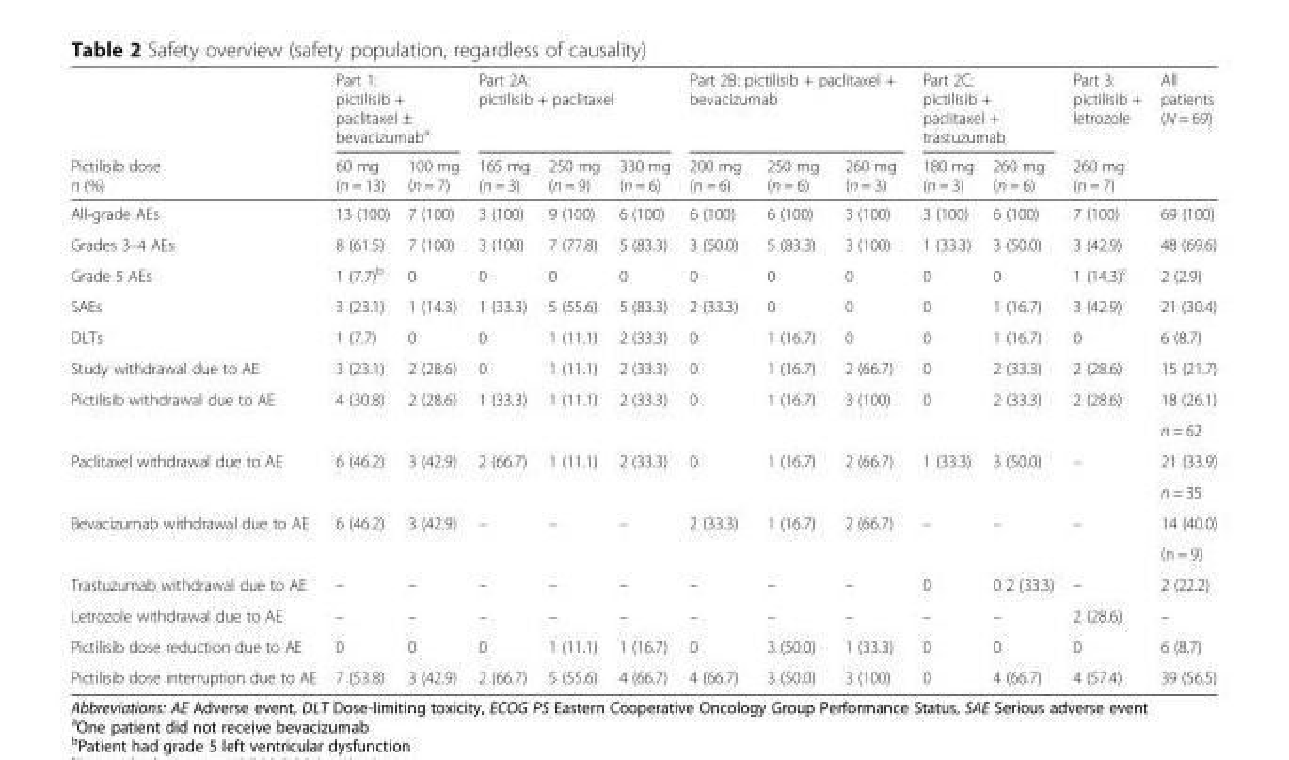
<table><thead><tr><td rowspan="2">Pictilisib dose n (%)</td><td colspan="2">Part 1: pictilisib + paclitaxel ± bevacizumab<sup>a</sup></td><td colspan="3">Part 2A: pictilisib + paclitaxel</td><td colspan="3">Part 2B: pictilisib + paclitaxel + bevacizumab</td><td colspan="2">Part 2C: pictilisib + paclitaxel + trastuzumab</td><td rowspan="2">Part 3: pictilisib + letrozole 260 mg (n = 7)</td><td rowspan="2">All patients (N = 69)</td></tr><tr><td>60 mg (n = 13)</td><td>100 mg (n = 7)</td><td>165 mg (n = 3)</td><td>250 mg (n = 9)</td><td>330 mg (n = 6)</td><td>200 mg (n = 6)</td><td>250 mg (n = 6)</td><td>260 mg (n = 3)</td><td>180 mg (n = 3)</td><td>260 mg (n = 6)</td></tr></thead><tbody><tr><td>All-grade AEs</td><td>13 (100)</td><td>7 (100)</td><td>3 (100)</td><td>9 (100)</td><td>6 (100)</td><td>6 (100)</td><td>6 (100)</td><td>3 (100)</td><td>3 (100)</td><td>6 (100)</td><td>7 (100)</td><td>69 (100)</td></tr><tr><td>Grades 3–4 AEs</td><td>8 (61.5)</td><td>7 (100)</td><td>3 (100)</td><td>7 (77.8)</td><td>5 (83.3)</td><td>3 (50.0)</td><td>5 (83.3)</td><td>3 (100)</td><td>1 (33.3)</td><td>3 (50.0)</td><td>3 (42.9)</td><td>48 (69.6)</td></tr><tr><td>Grade 5 AEs</td><td>1 (7.7)<sup>b</sup></td><td>0</td><td>0</td><td>0</td><td>0</td><td>0</td><td>0</td><td>0</td><td>0</td><td>0</td><td>1 (14.3)<sup>c</sup></td><td>2 (2.9)</td></tr><tr><td>SAEs</td><td>3 (23.1)</td><td>1 (14.3)</td><td>1 (33.3)</td><td>5 (55.6)</td><td>5 (83.3)</td><td>2 (33.3)</td><td>0</td><td>0</td><td>0</td><td>1 (16.7)</td><td>3 (42.9)</td><td>21 (30.4)</td></tr><tr><td>DLTs</td><td>1 (7.7)</td><td>0</td><td>0</td><td>1 (11.1)</td><td>2 (33.3)</td><td>0</td><td>1 (16.7)</td><td>0</td><td>0</td><td>1 (16.7)</td><td>0</td><td>6 (8.7)</td></tr><tr><td>Study withdrawal due to AE</td><td>3 (23.1)</td><td>2 (28.6)</td><td>0</td><td>1 (11.1)</td><td>2 (33.3)</td><td>0</td><td>1 (16.7)</td><td>2 (66.7)</td><td>0</td><td>2 (33.3)</td><td>2 (28.6)</td><td>15 (21.7)</td></tr><tr><td rowspan="2">Pictilisib withdrawal due to AE</td><td>4 (30.8)</td><td>2 (28.6)</td><td>1 (33.3)</td><td>1 (11.1)</td><td>2 (33.3)</td><td>0</td><td>1 (16.7)</td><td>3 (100)</td><td>0</td><td>2 (33.3)</td><td>2 (28.6)</td><td>18 (26.1)</td></tr><tr><td></td><td></td><td></td><td></td><td></td><td></td><td></td><td></td><td></td><td></td><td></td><td>n = 62</td></tr><tr><td rowspan="2">Paclitaxel withdrawal due to AE</td><td>6 (46.2)</td><td>3 (42.9)</td><td>2 (66.7)</td><td>1 (11.1)</td><td>2 (33.3)</td><td>0</td><td>1 (16.7)</td><td>2 (66.7)</td><td>1 (33.3)</td><td>3 (50.0)</td><td>–</td><td>21 (33.9)</td></tr><tr><td></td><td></td><td></td><td></td><td></td><td></td><td></td><td></td><td></td><td></td><td></td><td>n = 35</td></tr><tr><td rowspan="2">Bevacizumab withdrawal due to AE</td><td>6 (46.2)</td><td>3 (42.9)</td><td>–</td><td>–</td><td>–</td><td>2 (33.3)</td><td>1 (16.7)</td><td>2 (66.7)</td><td>–</td><td>–</td><td>–</td><td>14 (40.0)</td></tr><tr><td></td><td></td><td></td><td></td><td></td><td></td><td></td><td></td><td></td><td></td><td></td><td>(n = 9)</td></tr><tr><td>Trastuzumab withdrawal due to AE</td><td>–</td><td>–</td><td>–</td><td>–</td><td>–</td><td>–</td><td>–</td><td>–</td><td>0</td><td>0 2 (33.3)</td><td>–</td><td>2 (22.2)</td></tr><tr><td>Letrozole withdrawal due to AE</td><td>–</td><td>–</td><td>–</td><td>–</td><td>–</td><td>–</td><td>–</td><td>–</td><td>–</td><td>–</td><td>2 (28.6)</td><td>–</td></tr><tr><td>Pictilisib dose reduction due to AE</td><td>0</td><td>0</td><td>0</td><td>1 (11.1)</td><td>1 (16.7)</td><td>0</td><td>3 (50.0)</td><td>1 (33.3)</td><td>0</td><td>0</td><td>0</td><td>6 (8.7)</td></tr><tr><td>Pictilisib dose interruption due to AE</td><td>7 (53.8)</td><td>3 (42.9)</td><td>2 (66.7)</td><td>5 (55.6)</td><td>4 (66.7)</td><td>4 (66.7)</td><td>3 (50.0)</td><td>3 (100)</td><td>0</td><td>4 (66.7)</td><td>4 (57.4)</td><td>39 (56.5)</td></tr></tbody></table>